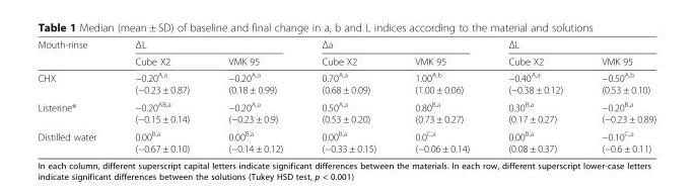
<table><thead><tr><td rowspan="2">Mouth-rinse</td><td colspan="2">ΔL</td><td colspan="2">Δa</td><td colspan="2">ΔL</td></tr><tr><td>Cube X2</td><td>VMK 95</td><td>Cube X2</td><td>VMK 95</td><td>Cube X2</td><td>VMK 95</td></tr></thead><tbody><tr><td>CHX</td><td>−0.20<sup>A,a</sup> (−0.23 ± 0.87)</td><td>−0.20<sup>A,a</sup> (0.18 ± 0.99)</td><td>0.70<sup>A,a</sup> (0.68 ± 0.09)</td><td>1.00<sup>A,b</sup> (1.00 ± 0.06)</td><td>−0.40<sup>A,a</sup> (−0.38 ± 0.12)</td><td>−0.50<sup>A,b</sup> (0.53 ± 0.10)</td></tr><tr><td>Listerine®</td><td>−0.20<sup>AB,a</sup> (−0.15 ± 0.14)</td><td>−0.20<sup>A,a</sup> (−0.23 ± 0.9)</td><td>0.50<sup>A,a</sup> (0.53 ± 0.20)</td><td>0.80<sup>B,a</sup> (0.73 ± 0.27)</td><td>0.30<sup>B,a</sup> (0.17 ± 0.27)</td><td>−0.20<sup>B,a</sup> (−0.23 ± 0.89)</td></tr><tr><td>Distilled water</td><td>0.00<sup>B,a</sup> (−0.67 ± 0.10)</td><td>0.00<sup>B,a</sup> (−0.14 ± 0.12)</td><td>0.00<sup>B,a</sup> (−0.33 ± 0.15)</td><td>0.0<sup>C,a</sup> (−0.06 ± 0.14)</td><td>0.00<sup>B,a</sup> (0.08 ± 0.37)</td><td>−0.10<sup>C,a</sup> (−0.6 ± 0.11)</td></tr></tbody></table>